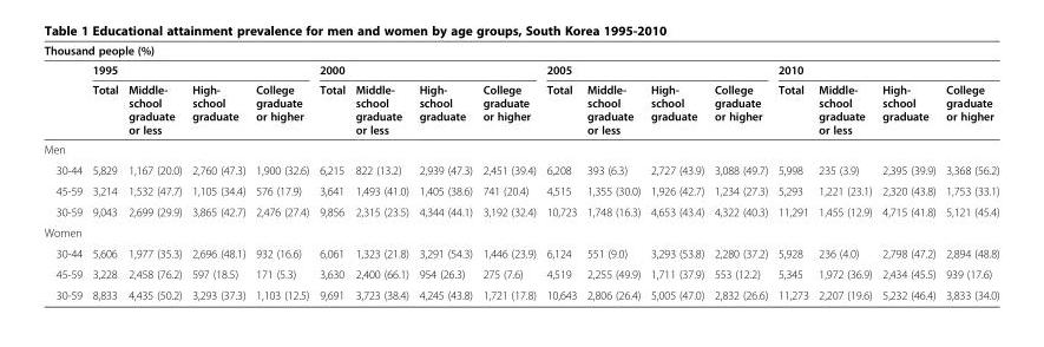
<table><thead><tr><td colspan="17">Thousand people (%)</td></tr><tr><td rowspan="2"></td><td colspan="4">1995</td><td colspan="4">2000</td><td colspan="4">2005</td><td colspan="4">2010</td></tr><tr><td>Total</td><td>Middle- school graduate or less</td><td>High- school graduate</td><td>College graduate or higher</td><td>Total</td><td>Middle- school graduate or less</td><td>High- school graduate</td><td>College graduate or higher</td><td>Total</td><td>Middle- school graduate or less</td><td>High- school graduate</td><td>College graduate or higher</td><td>Total</td><td>Middle- school graduate or less</td><td>High- school graduate</td><td>College graduate or higher</td></tr></thead><tbody><tr><td colspan="17">Men</td></tr><tr><td>30-44</td><td>5,829</td><td>1,167 (20.0)</td><td>2,760 (47.3)</td><td>1,900 (32.6)</td><td>6,215</td><td>822 (13.2)</td><td>2,939 (47.3)</td><td>2,451 (39.4)</td><td>6,208</td><td>393 (6.3)</td><td>2,727 (43.9)</td><td>3,088 (49.7)</td><td>5,998</td><td>235 (3.9)</td><td>2,395 (39.9)</td><td>3,368 (56.2)</td></tr><tr><td>45-59</td><td>3,214</td><td>1,532 (47.7)</td><td>1,105 (34.4)</td><td>576 (17.9)</td><td>3,641</td><td>1,493 (41.0)</td><td>1,405 (38.6)</td><td>741 (20.4)</td><td>4,515</td><td>1,355 (30.0)</td><td>1,926 (42.7)</td><td>1,234 (27.3)</td><td>5,293</td><td>1,221 (23.1)</td><td>2,320 (43.8)</td><td>1,753 (33.1)</td></tr><tr><td>30-59</td><td>9,043</td><td>2,699 (29.9)</td><td>3,865 (42.7)</td><td>2,476 (27.4)</td><td>9,856</td><td>2,315 (23.5)</td><td>4,344 (44.1)</td><td>3,192 (32.4)</td><td>10,723</td><td>1,748 (16.3)</td><td>4,653 (43.4)</td><td>4,322 (40.3)</td><td>11,291</td><td>1,455 (12.9)</td><td>4,715 (41.8)</td><td>5,121 (45.4)</td></tr><tr><td colspan="17">Women</td></tr><tr><td>30-44</td><td>5,606</td><td>1,977 (35.3)</td><td>2,696 (48.1)</td><td>932 (16.6)</td><td>6,061</td><td>1,323 (21.8)</td><td>3,291 (54.3)</td><td>1,446 (23.9)</td><td>6,124</td><td>551 (9.0)</td><td>3,293 (53.8)</td><td>2,280 (37.2)</td><td>5,928</td><td>236 (4.0)</td><td>2,798 (47.2)</td><td>2,894 (48.8)</td></tr><tr><td>45-59</td><td>3,228</td><td>2,458 (76.2)</td><td>597 (18.5)</td><td>171 (5.3)</td><td>3,630</td><td>2,400 (66.1)</td><td>954 (26.3)</td><td>275 (7.6)</td><td>4,519</td><td>2,255 (49.9)</td><td>1,711 (37.9)</td><td>553 (12.2)</td><td>5,345</td><td>1,972 (36.9)</td><td>2,434 (45.5)</td><td>939 (17.6)</td></tr><tr><td>30-59</td><td>8,833</td><td>4,435 (50.2)</td><td>3,293 (37.3)</td><td>1,103 (12.5)</td><td>9,691</td><td>3,723 (38.4)</td><td>4,245 (43.8)</td><td>1,721 (17.8)</td><td>10,643</td><td>2,806 (26.4)</td><td>5,005 (47.0)</td><td>2,832 (26.6)</td><td>11,273</td><td>2,207 (19.6)</td><td>5,232 (46.4)</td><td>3,833 (34.0)</td></tr></tbody></table>